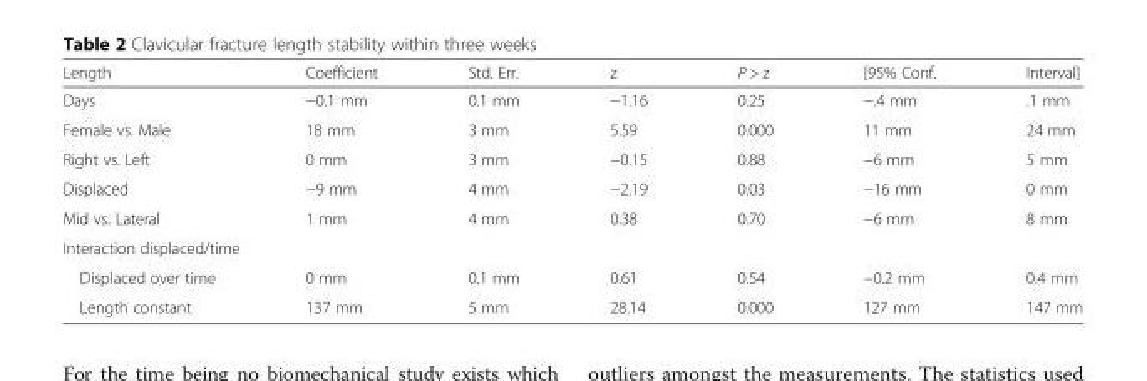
<table><thead><tr><td>Length</td><td>Coefficient</td><td>Std. Err.</td><td>z</td><td>P &gt; z</td><td>[95% Conf.</td><td>Interval]</td></tr></thead><tbody><tr><td>Days</td><td>−0.1 mm</td><td>0.1 mm</td><td>−1.16</td><td>0.25</td><td>−.4 mm</td><td>.1 mm</td></tr><tr><td>Female vs. Male</td><td>18 mm</td><td>3 mm</td><td>5.59</td><td>0.000</td><td>11 mm</td><td>24 mm</td></tr><tr><td>Right vs. Left</td><td>0 mm</td><td>3 mm</td><td>−0.15</td><td>0.88</td><td>−6 mm</td><td>5 mm</td></tr><tr><td>Displaced</td><td>−9 mm</td><td>4 mm</td><td>−2.19</td><td>0.03</td><td>−16 mm</td><td>0 mm</td></tr><tr><td>Mid vs. Lateral</td><td>1 mm</td><td>4 mm</td><td>0.38</td><td>0.70</td><td>−6 mm</td><td>8 mm</td></tr><tr><td colspan="7">Interaction displaced/time</td></tr><tr><td>Displaced over time</td><td>0 mm</td><td>0.1 mm</td><td>0.61</td><td>0.54</td><td>−0.2 mm</td><td>0.4 mm</td></tr><tr><td>Length constant</td><td>137 mm</td><td>5 mm</td><td>28.14</td><td>0.000</td><td>127 mm</td><td>147 mm</td></tr></tbody></table>